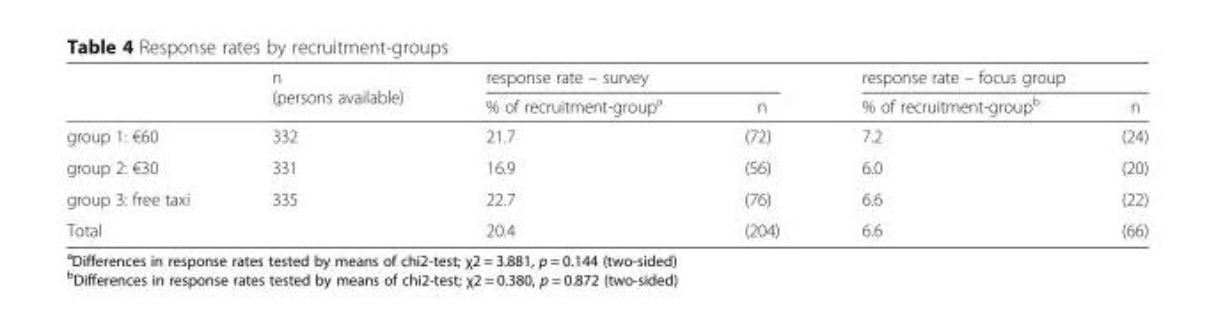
<table><thead><tr><td rowspan="2"></td><td rowspan="2">n (persons available)</td><td colspan="2">response rate – survey</td><td colspan="2">response rate – focus group</td></tr><tr><td>% of recruitment-group<sup>a</sup></td><td>n</td><td>% of recruitment-group<sup>b</sup></td><td>n</td></tr></thead><tbody><tr><td>group 1: €60</td><td>332</td><td>21.7</td><td>(72)</td><td>7.2</td><td>(24)</td></tr><tr><td>group 2: €30</td><td>331</td><td>16.9</td><td>(56)</td><td>6.0</td><td>(20)</td></tr><tr><td>group 3: free taxi</td><td>335</td><td>22.7</td><td>(76)</td><td>6.6</td><td>(22)</td></tr><tr><td>Total</td><td></td><td>20.4</td><td>(204)</td><td>6.6</td><td>(66)</td></tr></tbody></table>